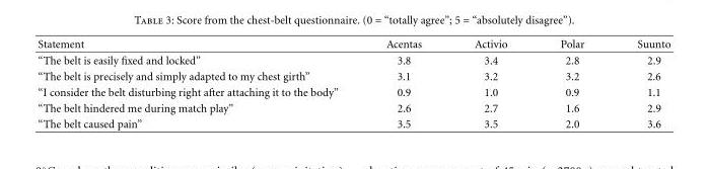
<table><thead><tr><td>Statement</td><td>Acentas</td><td>Activio</td><td>Polar</td><td>Suunto</td></tr></thead><tbody><tr><td>“The belt is easily fixed and locked”</td><td>3.8</td><td>3.4</td><td>2.8</td><td>2.9</td></tr><tr><td>“The belt is precisely and simply adapted to my chest girth”</td><td>3.1</td><td>3.2</td><td>3.2</td><td>2.6</td></tr><tr><td>“I consider the belt disturbing right after attaching it to the body”</td><td>0.9</td><td>1.0</td><td>0.9</td><td>1.1</td></tr><tr><td>“The belt hindered me during match play”</td><td>2.6</td><td>2.7</td><td>1.6</td><td>2.9</td></tr><tr><td>“The belt caused pain”</td><td>3.5</td><td>3.5</td><td>2.0</td><td>3.6</td></tr></tbody></table>